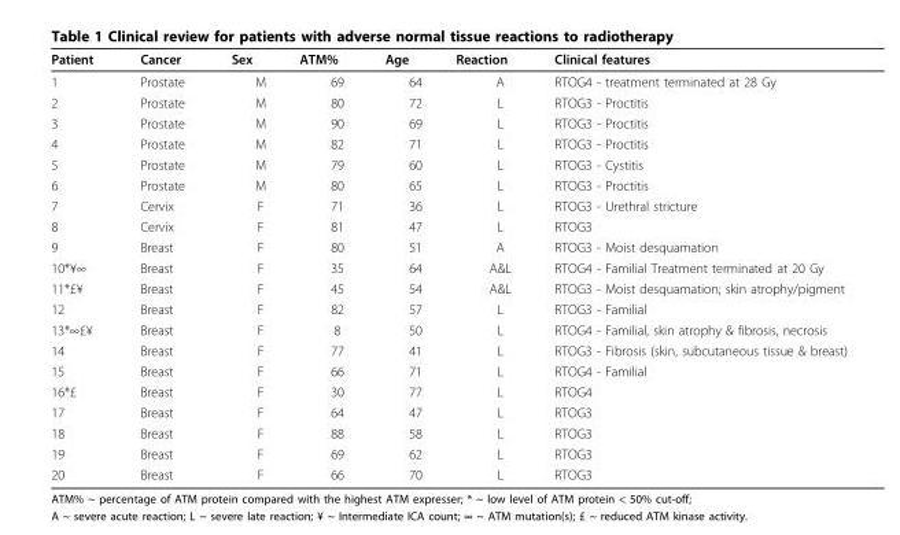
<table><thead><tr><td>Patient</td><td>Cancer</td><td>Sex</td><td>ATM%</td><td>Age</td><td>Reaction</td><td>Clinical features</td></tr></thead><tbody><tr><td>1</td><td>Prostate</td><td>M</td><td>69</td><td>64</td><td>A</td><td>RTOG4 - treatment terminated at 28 Gy</td></tr><tr><td>2</td><td>Prostate</td><td>M</td><td>80</td><td>72</td><td>L</td><td>RTOG3 - Proctitis</td></tr><tr><td>3</td><td>Prostate</td><td>M</td><td>90</td><td>69</td><td>L</td><td>RTOG3 - Proctitis</td></tr><tr><td>4</td><td>Prostate</td><td>M</td><td>82</td><td>71</td><td>L</td><td>RTOG3 - Proctitis</td></tr><tr><td>5</td><td>Prostate</td><td>M</td><td>79</td><td>60</td><td>L</td><td>RTOG3 - Cystitis</td></tr><tr><td>6</td><td>Prostate</td><td>M</td><td>80</td><td>65</td><td>L</td><td>RTOG3 - Proctitis</td></tr><tr><td>7</td><td>Cervix</td><td>F</td><td>71</td><td>36</td><td>L</td><td>RTOG3 - Urethral stricture</td></tr><tr><td>8</td><td>Cervix</td><td>F</td><td>81</td><td>47</td><td>L</td><td>RTOG3</td></tr><tr><td>9</td><td>Breast</td><td>F</td><td>80</td><td>51</td><td>A</td><td>RTOG3 - Moist desquamation</td></tr><tr><td>10*¥∞</td><td>Breast</td><td>F</td><td>35</td><td>64</td><td>A&amp;L</td><td>RTOG4 - Familial Treatment terminated at 20 Gy</td></tr><tr><td>11*£¥</td><td>Breast</td><td>F</td><td>45</td><td>54</td><td>A&amp;L</td><td>RTOG3 - Moist desquamation; skin atrophy/pigment</td></tr><tr><td>12</td><td>Breast</td><td>F</td><td>82</td><td>57</td><td>L</td><td>RTOG3 - Familial</td></tr><tr><td>13*∞£¥</td><td>Breast</td><td>F</td><td>8</td><td>50</td><td>L</td><td>RTOG4 - Familial, skin atrophy &amp; fibrosis, necrosis</td></tr><tr><td>14</td><td>Breast</td><td>F</td><td>77</td><td>41</td><td>L</td><td>RTOG3 - Fibrosis (skin, subcutaneous tissue &amp; breast)</td></tr><tr><td>15</td><td>Breast</td><td>F</td><td>66</td><td>71</td><td>L</td><td>RTOG4 - Familial</td></tr><tr><td>16*£</td><td>Breast</td><td>F</td><td>30</td><td>77</td><td>L</td><td>RTOG4</td></tr><tr><td>17</td><td>Breast</td><td>F</td><td>64</td><td>47</td><td>L</td><td>RTOG3</td></tr><tr><td>18</td><td>Breast</td><td>F</td><td>88</td><td>58</td><td>L</td><td>RTOG3</td></tr><tr><td>19</td><td>Breast</td><td>F</td><td>69</td><td>62</td><td>L</td><td>RTOG3</td></tr><tr><td>20</td><td>Breast</td><td>F</td><td>66</td><td>70</td><td>L</td><td>RTOG3</td></tr></tbody></table>